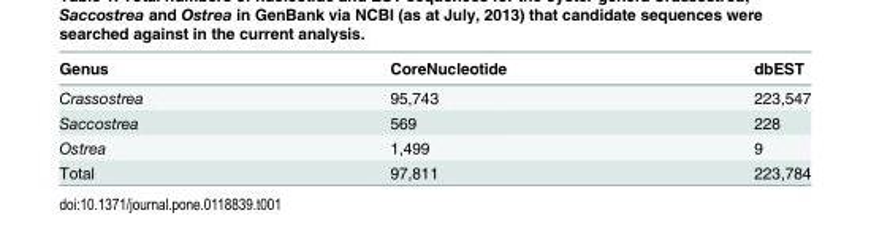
<table><thead><tr><td>Genus</td><td>CoreNucleotide</td><td>dbEST</td></tr></thead><tbody><tr><td>Crassostrea</td><td>95,743</td><td>223,547</td></tr><tr><td>Saccostrea</td><td>569</td><td>228</td></tr><tr><td>Ostrea</td><td>1,499</td><td>9</td></tr><tr><td>Total</td><td>97,811</td><td>223,784</td></tr></tbody></table>